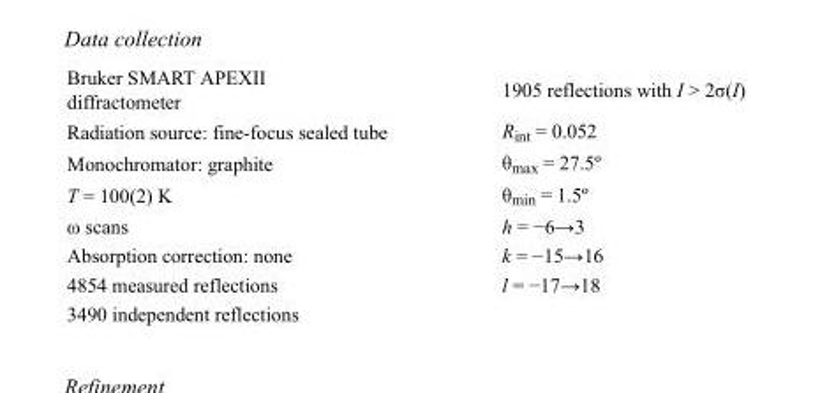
<table><tbody><tr><td>Bruker SMART APEXII diffractometer</td><td>1905 reflections with I &gt; 2σ(I)</td></tr><tr><td>Radiation source: fine-focus sealed tube</td><td>R<sub>int</sub> = 0.052</td></tr><tr><td>Monochromator: graphite</td><td>θ<sub>max</sub> = 27.5º</td></tr><tr><td>T = 100(2) K</td><td>θ<sub>min</sub> = 1.5º</td></tr><tr><td>ω scans</td><td>h = −6→3</td></tr><tr><td>Absorption correction: none</td><td>k = −15→16</td></tr><tr><td>4854 measured reflections</td><td>l = −17→18</td></tr><tr><td>3490 independent reflections</td><td></td></tr></tbody></table>